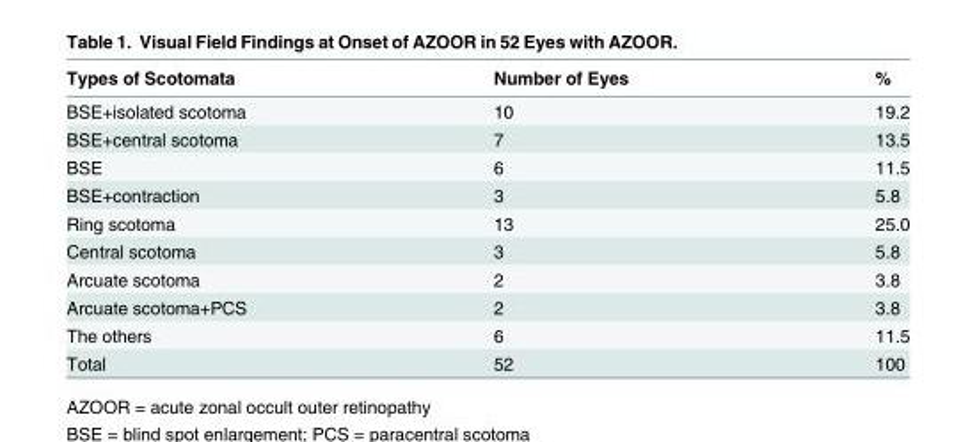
<table><thead><tr><td>Types of Scotomata</td><td>Number of Eyes</td><td>%</td></tr></thead><tbody><tr><td>BSE+isolated scotoma</td><td>10</td><td>19.2</td></tr><tr><td>BSE+central scotoma</td><td>7</td><td>13.5</td></tr><tr><td>BSE</td><td>6</td><td>11.5</td></tr><tr><td>BSE+contraction</td><td>3</td><td>5.8</td></tr><tr><td>Ring scotoma</td><td>13</td><td>25.0</td></tr><tr><td>Central scotoma</td><td>3</td><td>5.8</td></tr><tr><td>Arcuate scotoma</td><td>2</td><td>3.8</td></tr><tr><td>Arcuate scotoma+PCS</td><td>2</td><td>3.8</td></tr><tr><td>The others</td><td>6</td><td>11.5</td></tr><tr><td>Total</td><td>52</td><td>100</td></tr></tbody></table>